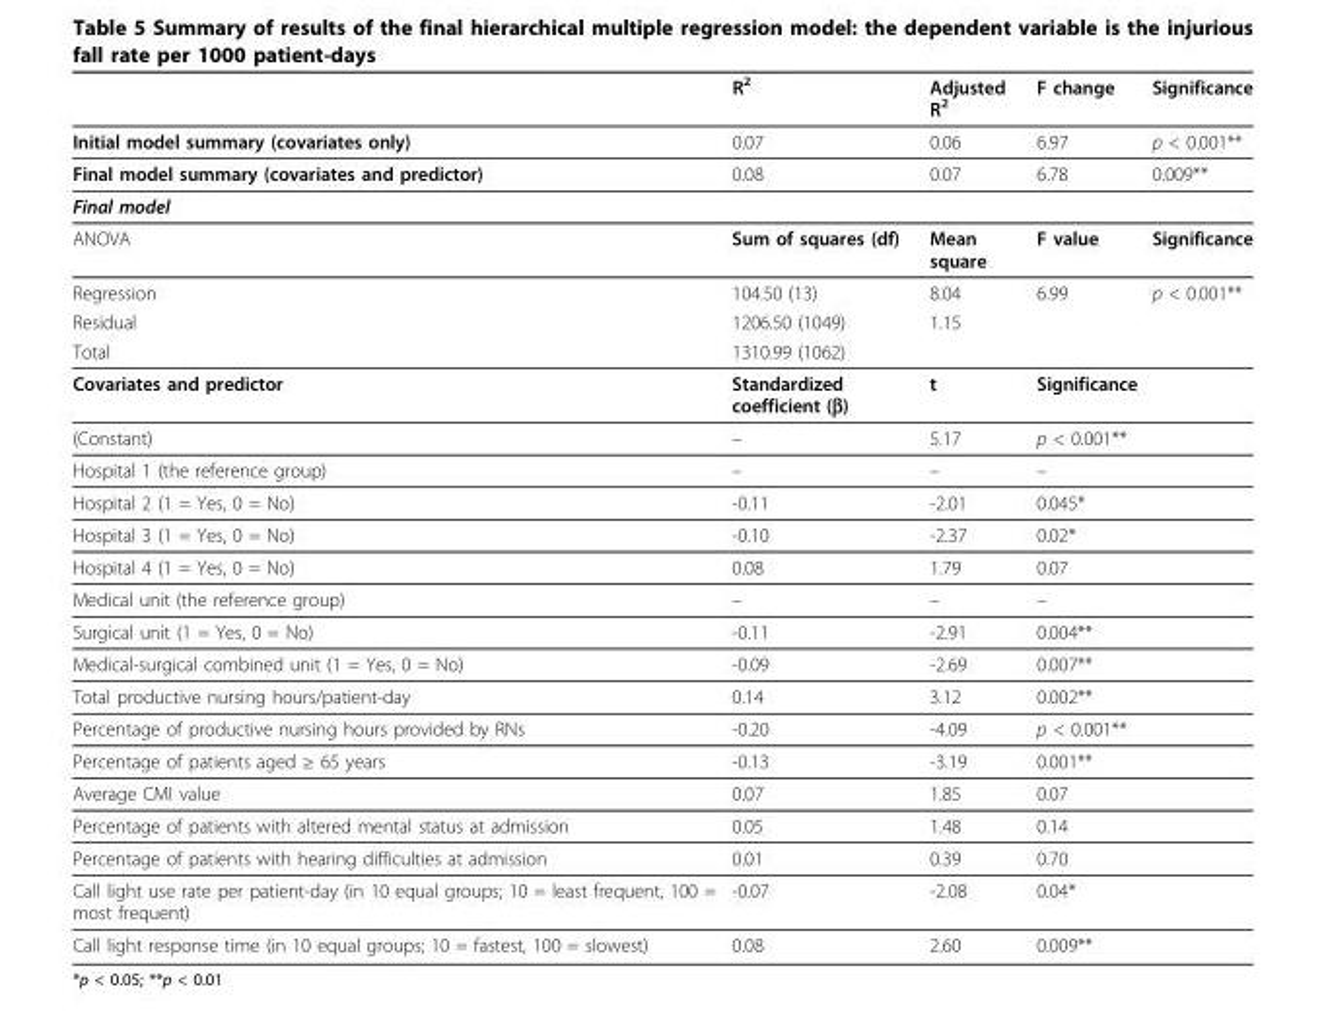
<table><thead><tr><td></td><td>R2</td><td>Adjusted R2</td><td>F change</td><td>Significance</td></tr></thead><tbody><tr><td>Initial model summary (covariates only)</td><td>0.07</td><td>0.06</td><td>6.97</td><td>p &lt; 0.001**</td></tr><tr><td>Final model summary (covariates and predictor)</td><td>0.08</td><td>0.07</td><td>6.78</td><td>0.009**</td></tr><tr><td colspan="5">Final model</td></tr><tr><td>ANOVA</td><td>Sum of squares (df)</td><td>Mean square</td><td>F value</td><td>Significance</td></tr><tr><td>Regression</td><td>104.50 (13)</td><td>8.04</td><td>6.99</td><td>p &lt; 0.001**</td></tr><tr><td>Residual</td><td>1206.50 (1049)</td><td>1.15</td><td></td><td></td></tr><tr><td>Total</td><td>1310.99 (1062)</td><td></td><td></td><td></td></tr><tr><td>Covariates and predictor</td><td>Standardized coefficient (β)</td><td>t</td><td>Significance</td><td></td></tr><tr><td>(Constant)</td><td>–</td><td>5.17</td><td>p &lt; 0.001**</td><td></td></tr><tr><td>Hospital 1 (the reference group)</td><td>–</td><td>–</td><td>–</td><td></td></tr><tr><td>Hospital 2 (1 = Yes, 0 = No)</td><td>-0.11</td><td>-2.01</td><td>0.045*</td><td></td></tr><tr><td>Hospital 3 (1 = Yes, 0 = No)</td><td>-0.10</td><td>-2.37</td><td>0.02*</td><td></td></tr><tr><td>Hospital 4 (1 = Yes, 0 = No)</td><td>0.08</td><td>1.79</td><td>0.07</td><td></td></tr><tr><td>Medical unit (the reference group)</td><td>–</td><td>–</td><td>–</td><td></td></tr><tr><td>Surgical unit (1 = Yes, 0 = No)</td><td>-0.11</td><td>-2.91</td><td>0.004**</td><td></td></tr><tr><td>Medical-surgical combined unit (1 = Yes, 0 = No)</td><td>-0.09</td><td>-2.69</td><td>0.007**</td><td></td></tr><tr><td>Total productive nursing hours/patient-day</td><td>0.14</td><td>3.12</td><td>0.002**</td><td></td></tr><tr><td>Percentage of productive nursing hours provided by RNs</td><td>-0.20</td><td>-4.09</td><td>p &lt; 0.001**</td><td></td></tr><tr><td>Percentage of patients aged ≥ 65 years</td><td>-0.13</td><td>-3.19</td><td>0.001**</td><td></td></tr><tr><td>Average CMI value</td><td>0.07</td><td>1.85</td><td>0.07</td><td></td></tr><tr><td>Percentage of patients with altered mental status at admission</td><td>0.05</td><td>1.48</td><td>0.14</td><td></td></tr><tr><td>Percentage of patients with hearing difficulties at admission</td><td>0.01</td><td>0.39</td><td>0.70</td><td></td></tr><tr><td>Call light use rate per patient-day (in 10 equal groups; 10 = least frequent, 100 = most frequent)</td><td>-0.07</td><td>-2.08</td><td>0.04*</td><td></td></tr><tr><td>Call light response time (in 10 equal groups; 10 = fastest, 100 = slowest)</td><td>0.08</td><td>2.60</td><td>0.009**</td><td></td></tr></tbody></table>